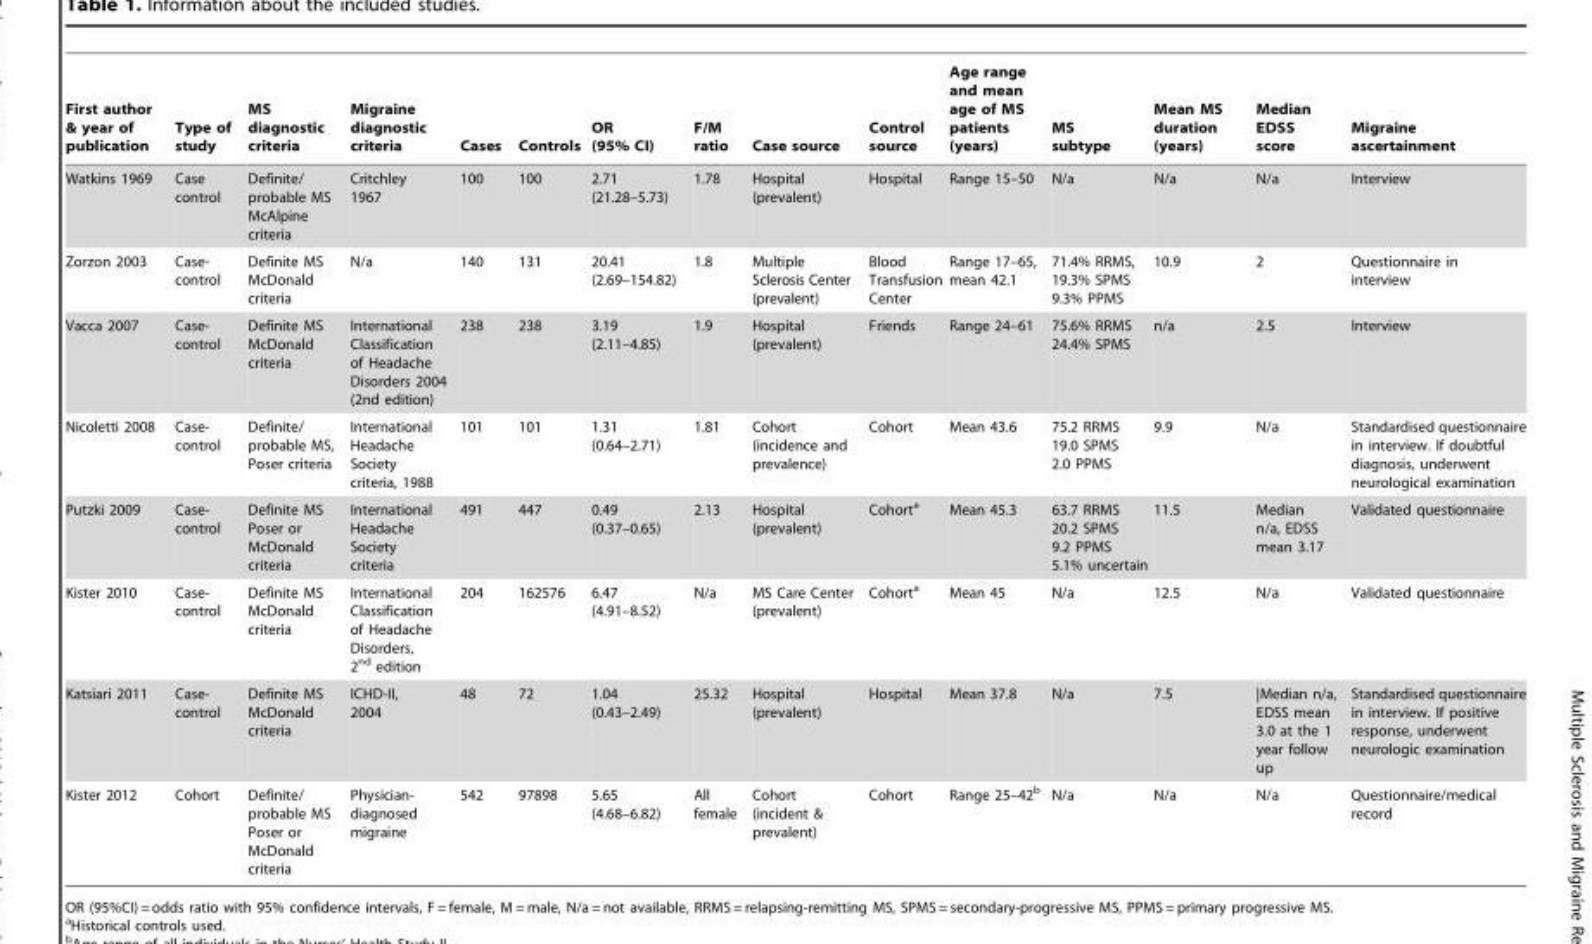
<table><thead><tr><td>First author &amp; year of publication</td><td>Type of study</td><td>MS diagnostic criteria</td><td>Migraine diagnostic criteria</td><td>Cases</td><td>Controls</td><td>OR (95% CI)</td><td>F/M ratio</td><td>Case source</td><td>Control source</td><td>Age range and mean age of MS patients (years)</td><td>MS subtype</td><td>Mean MS duration (years)</td><td>Median EDSS score</td><td>Migraine ascertainment</td></tr></thead><tbody><tr><td>Watkins 1969</td><td>Case control</td><td>Definite/ probable MS McAlpine criteria</td><td>Critchley 1967</td><td>100</td><td>100</td><td>2.71 (21.28–5.73)</td><td>1.78</td><td>Hospital (prevalent)</td><td>Hospital</td><td>Range 15–50</td><td>N/a</td><td>N/a</td><td>N/a</td><td>Interview</td></tr><tr><td>Zorzon 2003</td><td>Case- control</td><td>Definite MS McDonald criteria</td><td>N/a</td><td>140</td><td>131</td><td>20.41 (2.69–154.82)</td><td>1.8</td><td>Multiple Sclerosis Center (prevalent)</td><td>Blood Transfusion Center</td><td>Range 17–65, mean 42.1</td><td>71.4% RRMS, 19.3% SPMS 9.3% PPMS</td><td>10.9</td><td>2</td><td>Questionnaire in interview</td></tr><tr><td>Vacca 2007</td><td>Case- control</td><td>Definite MS McDonald criteria</td><td>International Classification of Headache Disorders 2004 (2nd edition)</td><td>238</td><td>238</td><td>3.19 (2.11–4.85)</td><td>1.9</td><td>Hospital (prevalent)</td><td>Friends</td><td>Range 24–61</td><td>75.6% RRMS 24.4% SPMS</td><td>n/a</td><td>2.5</td><td>Interview</td></tr><tr><td>Nicoletti 2008</td><td>Case- control</td><td>Definite/ probable MS, Poser criteria</td><td>International Headache Society criteria, 1988</td><td>101</td><td>101</td><td>1.31 (0.64–2.71)</td><td>1.81</td><td>Cohort (incidence and prevalence)</td><td>Cohort</td><td>Mean 43.6</td><td>75.2 RRMS 19.0 SPMS 2.0 PPMS</td><td>9.9</td><td>N/a</td><td>Standardised questionnaire in interview. If doubtful diagnosis, underwent neurological examination</td></tr><tr><td>Putzki 2009</td><td>Case- control</td><td>Definite MS Poser or McDonald criteria</td><td>International Headache Society criteria</td><td>491</td><td>447</td><td>0.49 (0.37–0.65)</td><td>2.13</td><td>Hospital (prevalent)</td><td>Cohort<sup>a</sup></td><td>Mean 45.3</td><td>63.7 RRMS 20.2 SPMS 9.2 PPMS 5.1% uncertain</td><td>11.5</td><td>Median n/a, EDSS mean 3.17</td><td>Validated questionnaire</td></tr><tr><td>Kister 2010</td><td>Case- control</td><td>Definite MS McDonald criteria</td><td>International Classification of Headache Disorders, 2<sup>nd</sup> edition</td><td>204</td><td>162576</td><td>6.47 (4.91–8.52)</td><td>N/a</td><td>MS Care Center (prevalent)</td><td>Cohort<sup>a</sup></td><td>Mean 45</td><td>N/a</td><td>12.5</td><td>N/a</td><td>Validated questionnaire</td></tr><tr><td>Katsiari 2011</td><td>Case- control</td><td>Definite MS McDonald criteria</td><td>ICHD-II, 2004</td><td>48</td><td>72</td><td>1.04 (0.43–2.49)</td><td>25.32</td><td>Hospital (prevalent)</td><td>Hospital</td><td>Mean 37.8</td><td>N/a</td><td>7.5</td><td>|Median n/a, EDSS mean 3.0 at the 1 year follow up</td><td>Standardised questionnaire in interview. If positive response, underwent neurologic examination</td></tr><tr><td>Kister 2012</td><td>Cohort</td><td>Definite/ probable MS Poser or McDonald criteria</td><td>Physician- diagnosed migraine</td><td>542</td><td>97898</td><td>5.65 (4.68–6.82)</td><td>All female</td><td>Cohort (incident &amp; prevalent)</td><td>Cohort</td><td>Range 25–42<sup>b</sup></td><td>N/a</td><td>N/a</td><td>N/a</td><td>Questionnaire/medical record</td></tr></tbody></table>